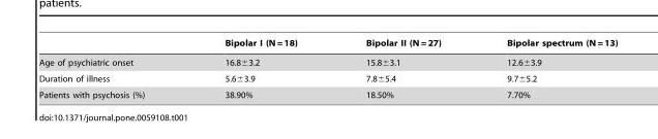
<table><thead><tr><td></td><td>Bipolar I (N = 18)</td><td>Bipolar II (N = 27)</td><td>Bipolar spectrum (N = 13)</td></tr></thead><tbody><tr><td>Age of psychiatric onset</td><td>16.8±3.2</td><td>15.8±3.1</td><td>12.6±3.9</td></tr><tr><td>Duration of illness</td><td>5.6±3.9</td><td>7.8±5.4</td><td>9.7±5.2</td></tr><tr><td>Patients with psychosis (%)</td><td>38.90%</td><td>18.50%</td><td>7.70%</td></tr></tbody></table>